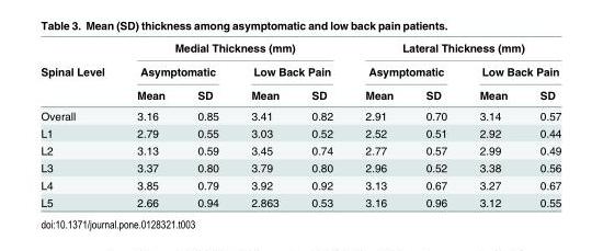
<table><thead><tr><td rowspan="3">Spinal Level</td><td colspan="4">Medial Thickness (mm)</td><td colspan="4">Lateral Thickness (mm)</td></tr><tr><td colspan="2">Asymptomatic</td><td colspan="2">Low Back Pain</td><td colspan="2">Asymptomatic</td><td colspan="2">Low Back Pain</td></tr><tr><td>Mean</td><td>SD</td><td>Mean</td><td>SD</td><td>Mean</td><td>SD</td><td>Mean</td><td>SD</td></tr></thead><tbody><tr><td>Overall</td><td>3.16</td><td>0.85</td><td>3.41</td><td>0.82</td><td>2.91</td><td>0.70</td><td>3.14</td><td>0.57</td></tr><tr><td>L1</td><td>2.79</td><td>0.55</td><td>3.03</td><td>0.52</td><td>2.52</td><td>0.51</td><td>2.92</td><td>0.44</td></tr><tr><td>L2</td><td>3.13</td><td>0.59</td><td>3.45</td><td>0.74</td><td>2.77</td><td>0.57</td><td>2.99</td><td>0.49</td></tr><tr><td>L3</td><td>3.37</td><td>0.80</td><td>3.79</td><td>0.80</td><td>2.96</td><td>0.52</td><td>3.38</td><td>0.56</td></tr><tr><td>L4</td><td>3.85</td><td>0.79</td><td>3.92</td><td>0.92</td><td>3.13</td><td>0.67</td><td>3.27</td><td>0.67</td></tr><tr><td>L5</td><td>2.66</td><td>0.94</td><td>2.863</td><td>0.53</td><td>3.16</td><td>0.96</td><td>3.12</td><td>0.55</td></tr></tbody></table>